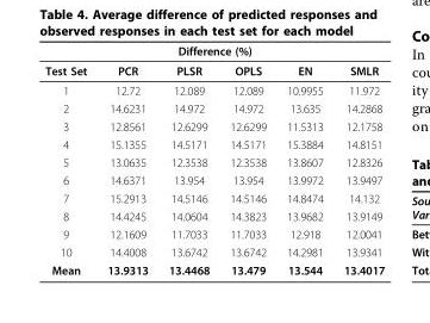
<table><thead><tr><td colspan="6">Difference (%)</td></tr><tr><td>Test Set</td><td>PCR</td><td>PLSR</td><td>OPLS</td><td>EN</td><td>SMLR</td></tr></thead><tbody><tr><td>1</td><td>12.72</td><td>12.089</td><td>12.089</td><td>10.9955</td><td>11.972</td></tr><tr><td>2</td><td>14.6231</td><td>14.972</td><td>14.972</td><td>13.635</td><td>14.2868</td></tr><tr><td>3</td><td>12.8561</td><td>12.6299</td><td>12.6299</td><td>11.5313</td><td>12.1758</td></tr><tr><td>4</td><td>15.1355</td><td>14.5171</td><td>14.5171</td><td>15.3884</td><td>14.8151</td></tr><tr><td>5</td><td>13.0635</td><td>12.3538</td><td>12.3538</td><td>13.8607</td><td>12.8326</td></tr><tr><td>6</td><td>14.6371</td><td>13.954</td><td>13.954</td><td>13.9972</td><td>13.9497</td></tr><tr><td>7</td><td>15.2913</td><td>14.5146</td><td>14.5146</td><td>14.8474</td><td>14.132</td></tr><tr><td>8</td><td>14.4245</td><td>14.0604</td><td>14.3823</td><td>13.9682</td><td>13.9149</td></tr><tr><td>9</td><td>12.1609</td><td>11.7033</td><td>11.7033</td><td>12.918</td><td>12.0041</td></tr><tr><td>10</td><td>14.4008</td><td>13.6742</td><td>13.6742</td><td>14.2981</td><td>13.9341</td></tr><tr><td>Mean</td><td>13.9313</td><td>13.4468</td><td>13.479</td><td>13.544</td><td>13.4017</td></tr></tbody></table>